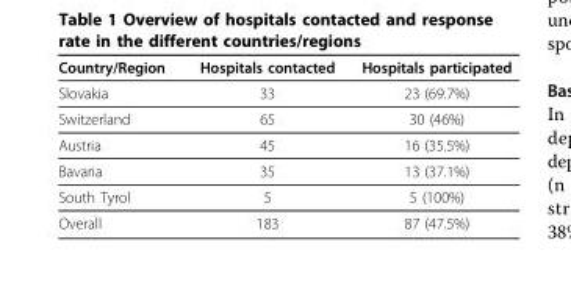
<table><thead><tr><td>Country/Region</td><td>Hospitals contacted</td><td>Hospitals participated</td></tr></thead><tbody><tr><td>Slovakia</td><td>33</td><td>23 (69.7%)</td></tr><tr><td>Switzerland</td><td>65</td><td>30 (46%)</td></tr><tr><td>Austria</td><td>45</td><td>16 (35.5%)</td></tr><tr><td>Bavaria</td><td>35</td><td>13 (37.1%)</td></tr><tr><td>South Tyrol</td><td>5</td><td>5 (100%)</td></tr><tr><td>Overall</td><td>183</td><td>87 (47.5%)</td></tr></tbody></table>